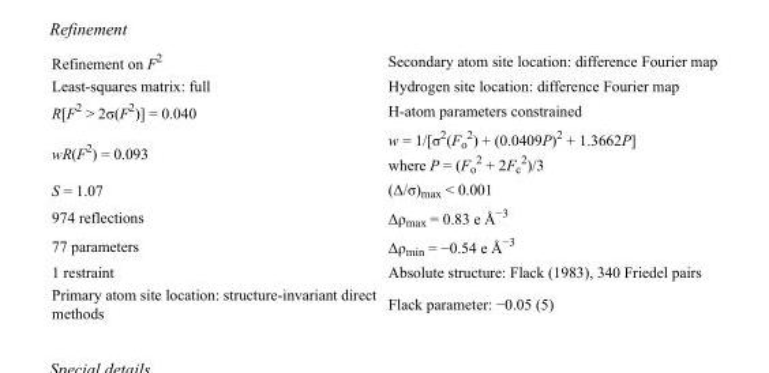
<table><tbody><tr><td>Refinement on F<sup>2</sup></td><td>Secondary atom site location: difference Fourier map</td></tr><tr><td>Least-squares matrix: full</td><td>Hydrogen site location: difference Fourier map</td></tr><tr><td>R[F<sup>2</sup> &gt; 2σ(F<sup>2</sup>)] = 0.040</td><td>H-atom parameters constrained</td></tr><tr><td>wR(F<sup>2</sup>) = 0.093</td><td>w = 1/[σ<sup>2</sup>(F<sub>o</sub> <sup>2</sup>) + (0.0409P)<sup>2</sup> + 1.3662P] where P = (F<sub>o</sub> <sup>2</sup> + 2F<sub>c</sub> <sup>2</sup>)/3</td></tr><tr><td>S = 1.07</td><td>(Δ/σ)<sub>max</sub> &lt; 0.001</td></tr><tr><td>974 reflections</td><td>Δρ<sub>max</sub> = 0.83 e Å<sup>−3</sup></td></tr><tr><td>77 parameters</td><td>Δρ<sub>min</sub> = −0.54 e Å<sup>−3</sup></td></tr><tr><td>1 restraint</td><td>Absolute structure: Flack (1983), 340 Friedel pairs</td></tr><tr><td>Primary atom site location: structure-invariant direct methods</td><td>Flack parameter: −0.05 (5)</td></tr></tbody></table>